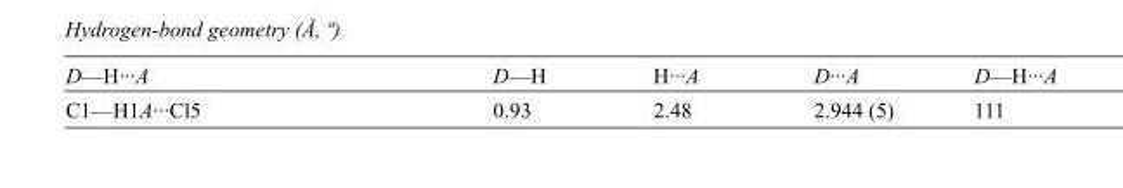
<table><tbody><tr><td>D—H···A</td><td>D—H</td><td>H···A</td><td>D···A</td><td>D—H···A</td></tr><tr><td>C1—H1A···Cl5</td><td>0.93</td><td>2.48</td><td>2.944 (5)</td><td>111</td></tr></tbody></table>